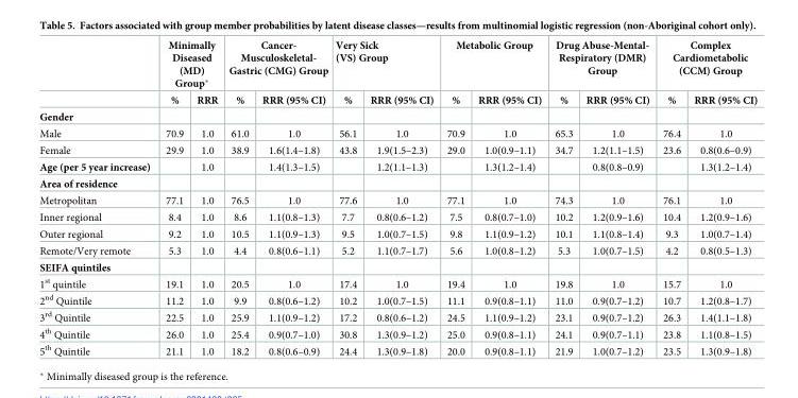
<table><thead><tr><td rowspan="2"></td><td colspan="2">Minimally Diseased (MD) Group*</td><td colspan="2">Cancer- Musculoskeletal- Gastric (CMG) Group</td><td colspan="2">Very Sick (VS) Group</td><td colspan="2">Metabolic Group</td><td colspan="2">Drug Abuse-Mental- Respiratory (DMR) Group</td><td colspan="2">Complex Cardiometabolic (CCM) Group</td></tr><tr><td>%</td><td>RRR</td><td>%</td><td>RRR (95% CI)</td><td>%</td><td>RRR (95% CI)</td><td>%</td><td>RRR (95% CI)</td><td>%</td><td>RRR (95% CI)</td><td>%</td><td>RRR (95% CI)</td></tr></thead><tbody><tr><td colspan="13">Gender</td></tr><tr><td>Male</td><td>70.9</td><td>1.0</td><td>61.0</td><td>1.0</td><td>56.1</td><td>1.0</td><td>70.9</td><td>1.0</td><td>65.3</td><td>1.0</td><td>76.4</td><td>1.0</td></tr><tr><td>Female</td><td>29.9</td><td>1.0</td><td>38.9</td><td>1.6(1.4–1.8)</td><td>43.8</td><td>1.9(1.5–2.3)</td><td>29.0</td><td>1.0(0.9–1.1)</td><td>34.7</td><td>1.2(1.1–1.5)</td><td>23.6</td><td>0.8(0.6–0.9)</td></tr><tr><td>Age (per 5 year increase)</td><td></td><td>1.0</td><td></td><td>1.4(1.3–1.5)</td><td></td><td>1.2(1.1–1.3)</td><td></td><td>1.3(1.2–1.4)</td><td></td><td>0.8(0.8–0.9)</td><td></td><td>1.3(1.2–1.4)</td></tr><tr><td colspan="13">Area of residence</td></tr><tr><td>Metropolitan</td><td>77.1</td><td>1.0</td><td>76.5</td><td>1.0</td><td>77.6</td><td>1.0</td><td>77.1</td><td>1.0</td><td>74.3</td><td>1.0</td><td>76.1</td><td>1.0</td></tr><tr><td>Inner regional</td><td>8.4</td><td>1.0</td><td>8.6</td><td>1.1(0.8–1.3)</td><td>7.7</td><td>0.8(0.6–1.2)</td><td>7.5</td><td>0.8(0.7–1.0)</td><td>10.2</td><td>1.2(0.9–1.6)</td><td>10.4</td><td>1.2(0.9–1.6)</td></tr><tr><td>Outer regional</td><td>9.2</td><td>1.0</td><td>10.5</td><td>1.1(0.9–1.3)</td><td>9.5</td><td>1.0(0.7–1.5)</td><td>9.8</td><td>1.1(0.9–1.2)</td><td>10.1</td><td>1.1(0.8–1.4)</td><td>9.3</td><td>1.0(0.7–1.4)</td></tr><tr><td>Remote/Very remote</td><td>5.3</td><td>1.0</td><td>4.4</td><td>0.8(0.6–1.1)</td><td>5.2</td><td>1.1(0.7–1.7)</td><td>5.6</td><td>1.0(0.8–1.2)</td><td>5.3</td><td>1.0(0.7–1.5)</td><td>4.2</td><td>0.8(0.5–1.3)</td></tr><tr><td colspan="13">SEIFA quintiles</td></tr><tr><td>1<sup>st</sup> quintile</td><td>19.1</td><td>1.0</td><td>20.5</td><td>1.0</td><td>17.4</td><td>1.0</td><td>19.4</td><td>1.0</td><td>19.8</td><td>1.0</td><td>15.7</td><td>1.0</td></tr><tr><td>2<sup>nd</sup> Quintile</td><td>11.2</td><td>1.0</td><td>9.9</td><td>0.8(0.6–1.2)</td><td>10.2</td><td>1.0(0.7–1.5)</td><td>11.1</td><td>0.9(0.8–1.1)</td><td>11.0</td><td>0.9(0.7–1.2)</td><td>10.7</td><td>1.2(0.8–1.7)</td></tr><tr><td>3<sup>rd</sup> Quintile</td><td>22.5</td><td>1.0</td><td>25.9</td><td>1.1(0.9–1.2)</td><td>17.2</td><td>0.8(0.6–1.2)</td><td>24.5</td><td>1.1(0.9–1.2)</td><td>23.1</td><td>0.9(0.7–1.2)</td><td>26.3</td><td>1.4(1.1–1.8)</td></tr><tr><td>4<sup>th</sup> Quintile</td><td>26.0</td><td>1.0</td><td>25.4</td><td>0.9(0.7–1.0)</td><td>30.8</td><td>1.3(0.9–1.2)</td><td>25.0</td><td>0.9(0.8–1.1)</td><td>24.1</td><td>0.9(0.7–1.1)</td><td>23.8</td><td>1.1(0.8–1.5)</td></tr><tr><td>5<sup>th</sup> Quintile</td><td>21.1</td><td>1.0</td><td>18.2</td><td>0.8(0.6–0.9)</td><td>24.4</td><td>1.3(0.9–1.8)</td><td>20.0</td><td>0.9(0.8–1.1)</td><td>21.9</td><td>1.0(0.7–1.2)</td><td>23.5</td><td>1.3(0.9–1.8)</td></tr></tbody></table>